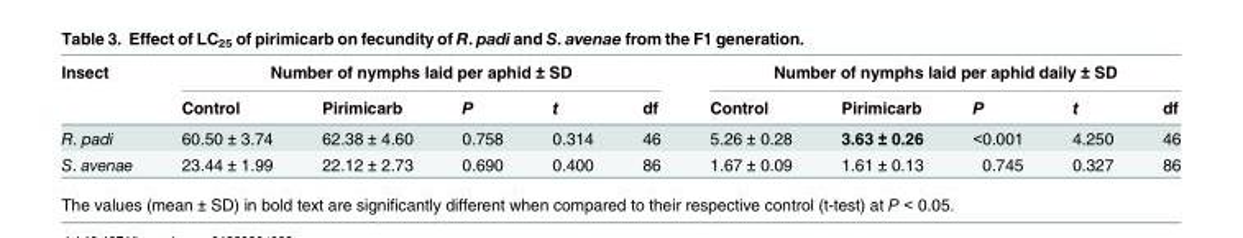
<table><thead><tr><td rowspan="2">Insect</td><td colspan="5">Number of nymphs laid per aphid ± SD</td><td colspan="5">Number of nymphs laid per aphid daily ± SD</td></tr><tr><td>Control</td><td>Pirimicarb</td><td>P</td><td>t</td><td>df</td><td>Control</td><td>Pirimicarb</td><td>P</td><td>t</td><td>df</td></tr></thead><tbody><tr><td>R. padi</td><td>60.50 ± 3.74</td><td>62.38 ± 4.60</td><td>0.758</td><td>0.314</td><td>46</td><td>5.26 ± 0.28</td><td>3.63 ± 0.26</td><td>&lt;0.001</td><td>4.250</td><td>46</td></tr><tr><td>S. avenae</td><td>23.44 ± 1.99</td><td>22.12 ± 2.73</td><td>0.690</td><td>0.400</td><td>86</td><td>1.67 ± 0.09</td><td>1.61 ± 0.13</td><td>0.745</td><td>0.327</td><td>86</td></tr></tbody></table>